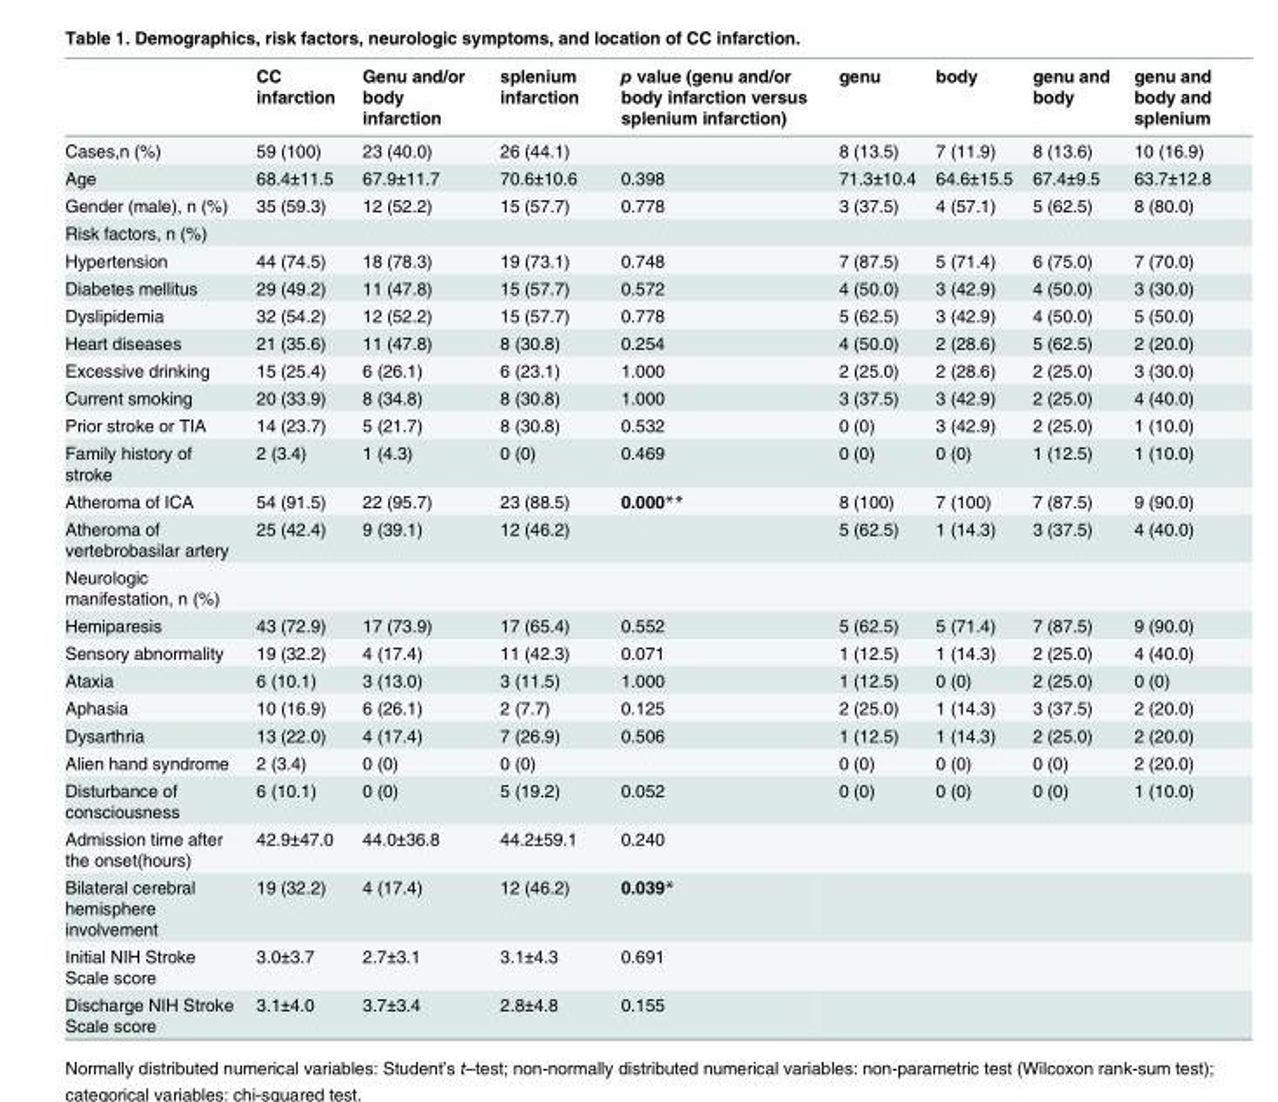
<table><thead><tr><td></td><td>CC infarction</td><td>Genu and/or body infarction</td><td>splenium infarction</td><td>p value (genu and/or body infarction versus splenium infarction)</td><td>genu</td><td>body</td><td>genu and body</td><td>genu and body and splenium</td></tr></thead><tbody><tr><td>Cases,n (%)</td><td>59 (100)</td><td>23 (40.0)</td><td>26 (44.1)</td><td></td><td>8 (13.5)</td><td>7 (11.9)</td><td>8 (13.6)</td><td>10 (16.9)</td></tr><tr><td>Age</td><td>68.4±11.5</td><td>67.9±11.7</td><td>70.6±10.6</td><td>0.398</td><td>71.3±10.4</td><td>64.6±15.5</td><td>67.4±9.5</td><td>63.7±12.8</td></tr><tr><td>Gender (male), n (%)</td><td>35 (59.3)</td><td>12 (52.2)</td><td>15 (57.7)</td><td>0.778</td><td>3 (37.5)</td><td>4 (57.1)</td><td>5 (62.5)</td><td>8 (80.0)</td></tr><tr><td colspan="9">Risk factors, n (%)</td></tr><tr><td>Hypertension</td><td>44 (74.5)</td><td>18 (78.3)</td><td>19 (73.1)</td><td>0.748</td><td>7 (87.5)</td><td>5 (71.4)</td><td>6 (75.0)</td><td>7 (70.0)</td></tr><tr><td>Diabetes mellitus</td><td>29 (49.2)</td><td>11 (47.8)</td><td>15 (57.7)</td><td>0.572</td><td>4 (50.0)</td><td>3 (42.9)</td><td>4 (50.0)</td><td>3 (30.0)</td></tr><tr><td>Dyslipidemia</td><td>32 (54.2)</td><td>12 (52.2)</td><td>15 (57.7)</td><td>0.778</td><td>5 (62.5)</td><td>3 (42.9)</td><td>4 (50.0)</td><td>5 (50.0)</td></tr><tr><td>Heart diseases</td><td>21 (35.6)</td><td>11 (47.8)</td><td>8 (30.8)</td><td>0.254</td><td>4 (50.0)</td><td>2 (28.6)</td><td>5 (62.5)</td><td>2 (20.0)</td></tr><tr><td>Excessive drinking</td><td>15 (25.4)</td><td>6 (26.1)</td><td>6 (23.1)</td><td>1.000</td><td>2 (25.0)</td><td>2 (28.6)</td><td>2 (25.0)</td><td>3 (30.0)</td></tr><tr><td>Current smoking</td><td>20 (33.9)</td><td>8 (34.8)</td><td>8 (30.8)</td><td>1.000</td><td>3 (37.5)</td><td>3 (42.9)</td><td>2 (25.0)</td><td>4 (40.0)</td></tr><tr><td>Prior stroke or TIA</td><td>14 (23.7)</td><td>5 (21.7)</td><td>8 (30.8)</td><td>0.532</td><td>0 (0)</td><td>3 (42.9)</td><td>2 (25.0)</td><td>1 (10.0)</td></tr><tr><td>Family history of stroke</td><td>2 (3.4)</td><td>1 (4.3)</td><td>0 (0)</td><td>0.469</td><td>0 (0)</td><td>0 (0)</td><td>1 (12.5)</td><td>1 (10.0)</td></tr><tr><td>Atheroma of ICA</td><td>54 (91.5)</td><td>22 (95.7)</td><td>23 (88.5)</td><td>0.000**</td><td>8 (100)</td><td>7 (100)</td><td>7 (87.5)</td><td>9 (90.0)</td></tr><tr><td>Atheroma of vertebrobasilar artery</td><td>25 (42.4)</td><td>9 (39.1)</td><td>12 (46.2)</td><td></td><td>5 (62.5)</td><td>1 (14.3)</td><td>3 (37.5)</td><td>4 (40.0)</td></tr><tr><td colspan="9">Neurologic manifestation, n (%)</td></tr><tr><td>Hemiparesis</td><td>43 (72.9)</td><td>17 (73.9)</td><td>17 (65.4)</td><td>0.552</td><td>5 (62.5)</td><td>5 (71.4)</td><td>7 (87.5)</td><td>9 (90.0)</td></tr><tr><td>Sensory abnormality</td><td>19 (32.2)</td><td>4 (17.4)</td><td>11 (42.3)</td><td>0.071</td><td>1 (12.5)</td><td>1 (14.3)</td><td>2 (25.0)</td><td>4 (40.0)</td></tr><tr><td>Ataxia</td><td>6 (10.1)</td><td>3 (13.0)</td><td>3 (11.5)</td><td>1.000</td><td>1 (12.5)</td><td>0 (0)</td><td>2 (25.0)</td><td>0 (0)</td></tr><tr><td>Aphasia</td><td>10 (16.9)</td><td>6 (26.1)</td><td>2 (7.7)</td><td>0.125</td><td>2 (25.0)</td><td>1 (14.3)</td><td>3 (37.5)</td><td>2 (20.0)</td></tr><tr><td>Dysarthria</td><td>13 (22.0)</td><td>4 (17.4)</td><td>7 (26.9)</td><td>0.506</td><td>1 (12.5)</td><td>1 (14.3)</td><td>2 (25.0)</td><td>2 (20.0)</td></tr><tr><td>Alien hand syndrome</td><td>2 (3.4)</td><td>0 (0)</td><td>0 (0)</td><td></td><td>0 (0)</td><td>0 (0)</td><td>0 (0)</td><td>2 (20.0)</td></tr><tr><td>Disturbance of consciousness</td><td>6 (10.1)</td><td>0 (0)</td><td>5 (19.2)</td><td>0.052</td><td>0 (0)</td><td>0 (0)</td><td>0 (0)</td><td>1 (10.0)</td></tr><tr><td>Admission time after the onset(hours)</td><td>42.9±47.0</td><td>44.0±36.8</td><td>44.2±59.1</td><td>0.240</td><td colspan="4"></td></tr><tr><td>Bilateral cerebral hemisphere involvement</td><td>19 (32.2)</td><td>4 (17.4)</td><td>12 (46.2)</td><td>0.039*</td><td colspan="4"></td></tr><tr><td>Initial NIH Stroke Scale score</td><td>3.0±3.7</td><td>2.7±3.1</td><td>3.1±4.3</td><td>0.691</td><td colspan="4"></td></tr><tr><td>Discharge NIH Stroke Scale score</td><td>3.1±4.0</td><td>3.7±3.4</td><td>2.8±4.8</td><td>0.155</td><td colspan="4"></td></tr></tbody></table>